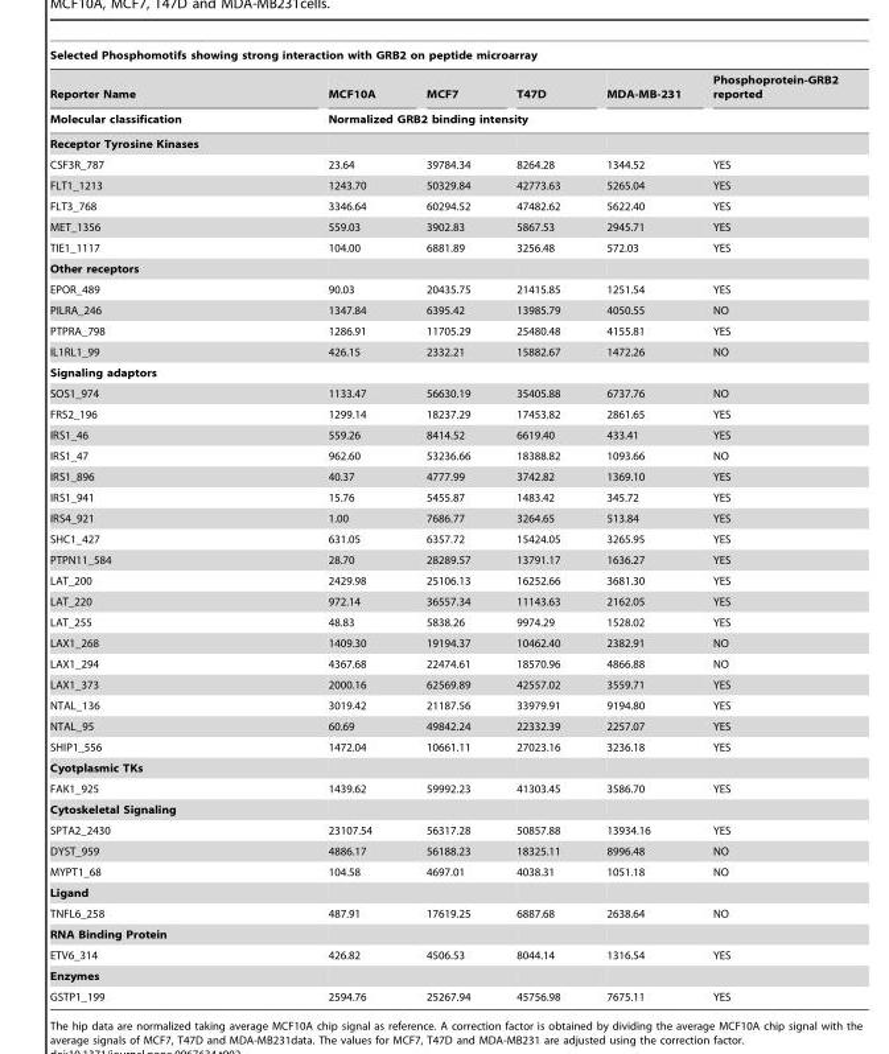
<table><thead><tr><td colspan="6">Selected Phosphomotifs showing strong interaction with GRB2 on peptide microarray</td></tr><tr><td rowspan="2">Reporter Name Molecular classification</td><td>MCF10A</td><td>MCF7</td><td>T47D</td><td>MDA-MB-231</td><td rowspan="2">Phosphoprotein-GRB2 reported</td></tr><tr><td colspan="4">Normalized GRB2 binding intensity</td></tr></thead><tbody><tr><td colspan="6">Receptor Tyrosine Kinases</td></tr><tr><td>CSF3R_787</td><td>23.64</td><td>39784.34</td><td>8264.28</td><td>1344.52</td><td>YES</td></tr><tr><td>FLT1_1213</td><td>1243.70</td><td>50329.84</td><td>42773.63</td><td>5265.04</td><td>YES</td></tr><tr><td>FLT3_768</td><td>3346.64</td><td>60294.52</td><td>47482.62</td><td>5622.40</td><td>YES</td></tr><tr><td>MET_1356</td><td>559.03</td><td>3902.83</td><td>5867.53</td><td>2945.71</td><td>YES</td></tr><tr><td>TIE1_1117</td><td>104.00</td><td>6881.89</td><td>3256.48</td><td>572.03</td><td>YES</td></tr><tr><td colspan="6">Other receptors</td></tr><tr><td>EPOR_489</td><td>90.03</td><td>20435.75</td><td>21415.85</td><td>1251.54</td><td>YES</td></tr><tr><td>PILRA_246</td><td>1347.84</td><td>6395.42</td><td>13985.79</td><td>4050.55</td><td>NO</td></tr><tr><td>PTPRA_798</td><td>1286.91</td><td>11705.29</td><td>25480.48</td><td>4155.81</td><td>YES</td></tr><tr><td>IL1RL1_99</td><td>426.15</td><td>2332.21</td><td>15882.67</td><td>1472.26</td><td>NO</td></tr><tr><td colspan="6">Signaling adaptors</td></tr><tr><td>SOS1_974</td><td>1133.47</td><td>56630.19</td><td>35405.88</td><td>6737.76</td><td>NO</td></tr><tr><td>FRS2_196</td><td>1299.14</td><td>18237.29</td><td>17453.82</td><td>2861.65</td><td>YES</td></tr><tr><td>IRS1_46</td><td>559.26</td><td>8414.52</td><td>6619.40</td><td>433.41</td><td>YES</td></tr><tr><td>IRS1_47</td><td>962.60</td><td>53236.66</td><td>18388.82</td><td>1093.66</td><td>NO</td></tr><tr><td>IRS1_896</td><td>40.37</td><td>4777.99</td><td>3742.82</td><td>1369.10</td><td>YES</td></tr><tr><td>IRS1_941</td><td>15.76</td><td>5455.87</td><td>1483.42</td><td>345.72</td><td>YES</td></tr><tr><td>IRS4_921</td><td>1.00</td><td>7686.77</td><td>3264.65</td><td>513.84</td><td>YES</td></tr><tr><td>SHC1_427</td><td>631.05</td><td>6357.72</td><td>15424.05</td><td>3265.95</td><td>YES</td></tr><tr><td>PTPN11_584</td><td>28.70</td><td>28289.57</td><td>13791.17</td><td>1636.27</td><td>YES</td></tr><tr><td>LAT_200</td><td>2429.98</td><td>25106.13</td><td>16252.66</td><td>3681.30</td><td>YES</td></tr><tr><td>LAT_220</td><td>972.14</td><td>36557.34</td><td>11143.63</td><td>2162.05</td><td>YES</td></tr><tr><td>LAT_255</td><td>48.83</td><td>5838.26</td><td>9974.29</td><td>1528.02</td><td>YES</td></tr><tr><td>LAX1_268</td><td>1409.30</td><td>19194.37</td><td>10462.40</td><td>2382.91</td><td>NO</td></tr><tr><td>LAX1_294</td><td>4367.68</td><td>22474.61</td><td>18570.96</td><td>4866.88</td><td>NO</td></tr><tr><td>LAX1_373</td><td>2000.16</td><td>62569.89</td><td>42557.02</td><td>3559.71</td><td>YES</td></tr><tr><td>NTAL_136</td><td>3019.42</td><td>21187.56</td><td>33979.91</td><td>9194.80</td><td>YES</td></tr><tr><td>NTAL_95</td><td>60.69</td><td>49842.24</td><td>22332.39</td><td>2257.07</td><td>YES</td></tr><tr><td>SHIP1_556</td><td>1472.04</td><td>10661.11</td><td>27023.16</td><td>3236.18</td><td>YES</td></tr><tr><td colspan="6">Cyotplasmic TKs</td></tr><tr><td>FAK1_925</td><td>1439.62</td><td>59992.23</td><td>41303.45</td><td>3586.70</td><td>YES</td></tr><tr><td colspan="6">Cytoskeletal Signaling</td></tr><tr><td>SPTA2_2430</td><td>23107.54</td><td>56317.28</td><td>50857.88</td><td>13934.16</td><td>YES</td></tr><tr><td>DYST_959</td><td>4886.17</td><td>56188.23</td><td>18325.11</td><td>8996.48</td><td>NO</td></tr><tr><td>MYPT1_68</td><td>104.58</td><td>4697.01</td><td>4038.31</td><td>1051.18</td><td>NO</td></tr><tr><td colspan="6">Ligand</td></tr><tr><td>TNFL6_258</td><td>487.91</td><td>17619.25</td><td>6887.68</td><td>2638.64</td><td>NO</td></tr><tr><td colspan="6">RNA Binding Protein</td></tr><tr><td>ETV6_314</td><td>426.82</td><td>4506.53</td><td>8044.14</td><td>1316.54</td><td>YES</td></tr><tr><td colspan="6">Enzymes</td></tr><tr><td>GSTP1_199</td><td>2594.76</td><td>25267.94</td><td>45756.98</td><td>7675.11</td><td>YES</td></tr></tbody></table>